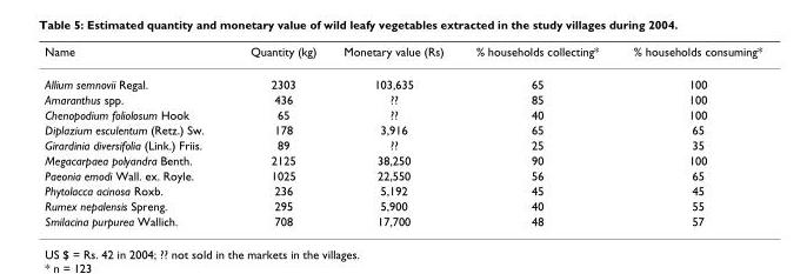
<table><thead><tr><td>Name</td><td>Quantity (kg)</td><td>Monetary value (Rs)</td><td>% households collecting*</td><td>% households consuming*</td></tr></thead><tbody><tr><td>Allium semnovii Regal.</td><td>2303</td><td>103,635</td><td>65</td><td>100</td></tr><tr><td>Amaranthus spp.</td><td>436</td><td>??</td><td>85</td><td>100</td></tr><tr><td>Chenopodium foliolosum Hook</td><td>65</td><td>??</td><td>40</td><td>100</td></tr><tr><td>Diplazium esculentum (Retz.) Sw.</td><td>178</td><td>3,916</td><td>65</td><td>65</td></tr><tr><td>Girardinia diversifolia (Link.) Friis.</td><td>89</td><td>??</td><td>25</td><td>35</td></tr><tr><td>Megacarpaea polyandra Benth.</td><td>2125</td><td>38,250</td><td>90</td><td>100</td></tr><tr><td>Paeonia emodi Wall. ex. Royle.</td><td>1025</td><td>22,550</td><td>56</td><td>65</td></tr><tr><td>Phytolacca acinosa Roxb.</td><td>236</td><td>5,192</td><td>45</td><td>45</td></tr><tr><td>Rumex nepalensis Spreng.</td><td>295</td><td>5,900</td><td>40</td><td>55</td></tr><tr><td>Smilacina purpurea Wallich.</td><td>708</td><td>17,700</td><td>48</td><td>57</td></tr></tbody></table>